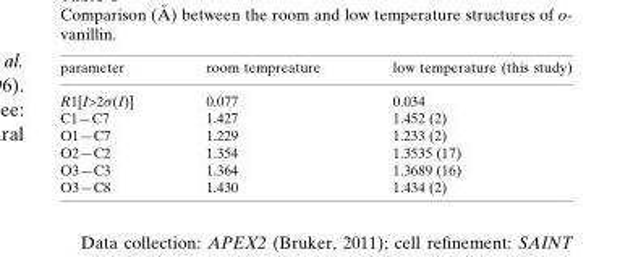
<table><thead><tr><td>parameter</td><td>room tempreature</td><td>low temperature (this study)</td></tr></thead><tbody><tr><td>R1[I&gt;2σ(I)]</td><td>0.077</td><td>0.034</td></tr><tr><td>C1—C7</td><td>1.427</td><td>1.452 (2)</td></tr><tr><td>O1—C7</td><td>1.229</td><td>1.233 (2)</td></tr><tr><td>O2—C2</td><td>1.354</td><td>1.3535 (17)</td></tr><tr><td>O3—C3</td><td>1.364</td><td>1.3689 (16)</td></tr><tr><td>O3—C8</td><td>1.430</td><td>1.434 (2)</td></tr></tbody></table>